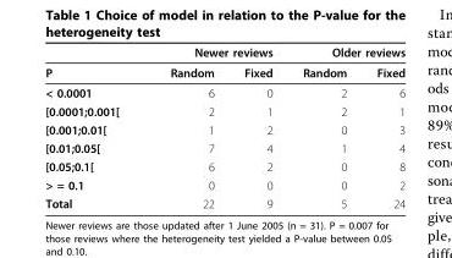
<table><thead><tr><td rowspan="2">P</td><td colspan="2">Newer reviews</td><td colspan="2">Older reviews</td></tr><tr><td>Random</td><td>Fixed</td><td>Random</td><td>Fixed</td></tr></thead><tbody><tr><td>&lt; 0.0001</td><td>6</td><td>0</td><td>2</td><td>6</td></tr><tr><td>[0.0001;0.001[</td><td>2</td><td>1</td><td>2</td><td>1</td></tr><tr><td>[0.001;0.01[</td><td>1</td><td>2</td><td>0</td><td>3</td></tr><tr><td>[0.01;0.05[</td><td>7</td><td>4</td><td>1</td><td>4</td></tr><tr><td>[0.05;0.1[</td><td>6</td><td>2</td><td>0</td><td>8</td></tr><tr><td>&gt; = 0.1</td><td>0</td><td>0</td><td>0</td><td>2</td></tr><tr><td>Total</td><td>22</td><td>9</td><td>5</td><td>24</td></tr></tbody></table>